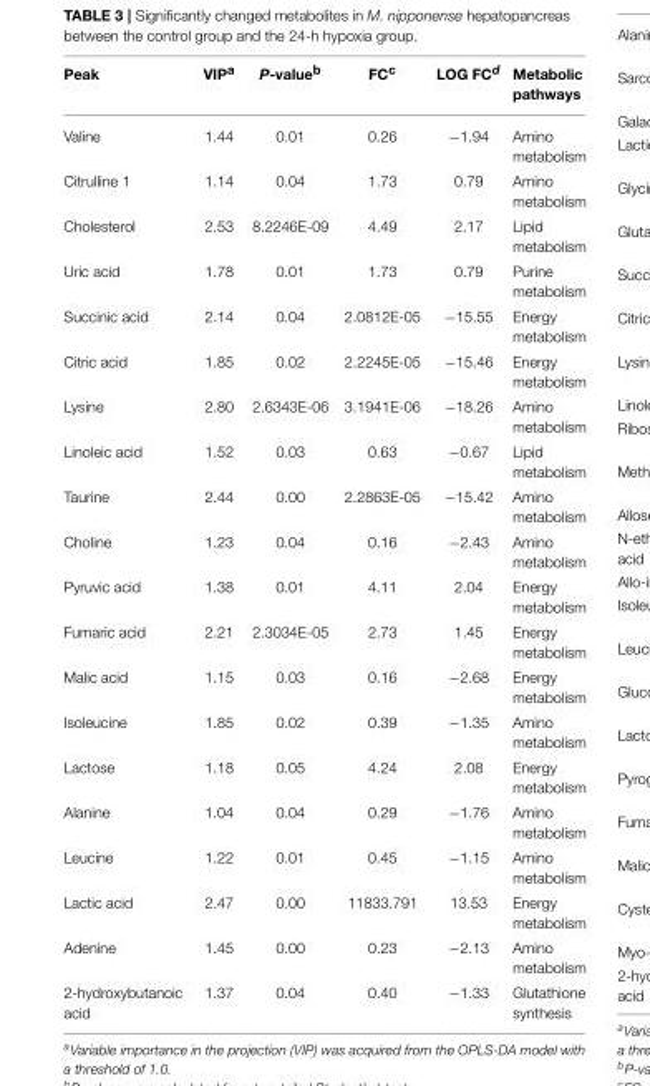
<table><thead><tr><td>Peak</td><td>VIP<sup>a</sup></td><td>P-value<sup>b</sup></td><td>FC<sup>c</sup></td><td>LOG FC<sup>d</sup></td><td>Metabolic pathways</td></tr></thead><tbody><tr><td>Valine</td><td>1.44</td><td>0.01</td><td>0.26</td><td>−1.94</td><td>Amino metabolism</td></tr><tr><td>Citrulline 1</td><td>1.14</td><td>0.04</td><td>1.73</td><td>0.79</td><td>Amino metabolism</td></tr><tr><td>Cholesterol</td><td>2.53</td><td>8.2246E-09</td><td>4.49</td><td>2.17</td><td>Lipid metabolism</td></tr><tr><td>Uric acid</td><td>1.78</td><td>0.01</td><td>1.73</td><td>0.79</td><td>Purine metabolism</td></tr><tr><td>Succinic acid</td><td>2.14</td><td>0.04</td><td>2.0812E-05</td><td>−15.55</td><td>Energy metabolism</td></tr><tr><td>Citric acid</td><td>1.85</td><td>0.02</td><td>2.2245E-05</td><td>−15.46</td><td>Energy metabolism</td></tr><tr><td>Lysine</td><td>2.80</td><td>2.6343E-06</td><td>3.1941E-06</td><td>−18.26</td><td>Amino metabolism</td></tr><tr><td>Linoleic acid</td><td>1.52</td><td>0.03</td><td>0.63</td><td>−0.67</td><td>Lipid metabolism</td></tr><tr><td>Taurine</td><td>2.44</td><td>0.00</td><td>2.2863E-05</td><td>−15.42</td><td>Amino metabolism</td></tr><tr><td>Choline</td><td>1.23</td><td>0.04</td><td>0.16</td><td>−2.43</td><td>Amino metabolism</td></tr><tr><td>Pyruvic acid</td><td>1.38</td><td>0.01</td><td>4.11</td><td>2.04</td><td>Energy metabolism</td></tr><tr><td>Fumaric acid</td><td>2.21</td><td>2.3034E-05</td><td>2.73</td><td>1.45</td><td>Energy metabolism</td></tr><tr><td>Malic acid</td><td>1.15</td><td>0.03</td><td>0.16</td><td>−2.68</td><td>Energy metabolism</td></tr><tr><td>Isoleucine</td><td>1.85</td><td>0.02</td><td>0.39</td><td>−1.35</td><td>Amino metabolism</td></tr><tr><td>Lactose</td><td>1.18</td><td>0.05</td><td>4.24</td><td>2.08</td><td>Energy metabolism</td></tr><tr><td>Alanine</td><td>1.04</td><td>0.04</td><td>0.29</td><td>−1.76</td><td>Amino metabolism</td></tr><tr><td>Leucine</td><td>1.22</td><td>0.01</td><td>0.45</td><td>−1.15</td><td>Amino metabolism</td></tr><tr><td>Lactic acid</td><td>2.47</td><td>0.00</td><td>11833.791</td><td>13.53</td><td>Energy metabolism</td></tr><tr><td>Adenine</td><td>1.45</td><td>0.00</td><td>0.23</td><td>−2.13</td><td>Amino metabolism</td></tr><tr><td>2-hydroxybutanoic acid</td><td>1.37</td><td>0.04</td><td>0.40</td><td>−1.33</td><td>Glutathione synthesis</td></tr></tbody></table>